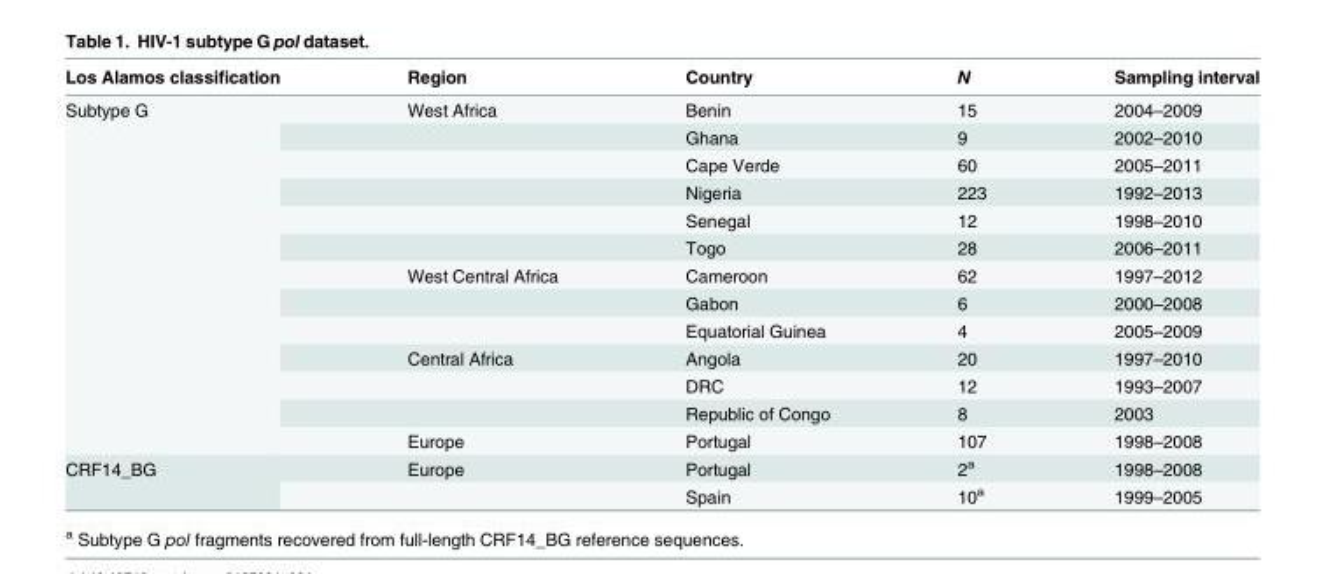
<table><thead><tr><td>Los Alamos classification</td><td>Region</td><td>Country</td><td>N</td><td>Sampling interval</td></tr></thead><tbody><tr><td rowspan="13">Subtype G</td><td>West Africa</td><td>Benin</td><td>15</td><td>2004–2009</td></tr><tr><td></td><td>Ghana</td><td>9</td><td>2002–2010</td></tr><tr><td></td><td>Cape Verde</td><td>60</td><td>2005–2011</td></tr><tr><td></td><td>Nigeria</td><td>223</td><td>1992–2013</td></tr><tr><td></td><td>Senegal</td><td>12</td><td>1998–2010</td></tr><tr><td></td><td>Togo</td><td>28</td><td>2006–2011</td></tr><tr><td>West Central Africa</td><td>Cameroon</td><td>62</td><td>1997–2012</td></tr><tr><td></td><td>Gabon</td><td>6</td><td>2000–2008</td></tr><tr><td></td><td>Equatorial Guinea</td><td>4</td><td>2005–2009</td></tr><tr><td>Central Africa</td><td>Angola</td><td>20</td><td>1997–2010</td></tr><tr><td></td><td>DRC</td><td>12</td><td>1993–2007</td></tr><tr><td></td><td>Republic of Congo</td><td>8</td><td>2003</td></tr><tr><td>Europe</td><td>Portugal</td><td>107</td><td>1998–2008</td></tr><tr><td rowspan="2">CRF14_BG</td><td>Europe</td><td>Portugal</td><td>2<sup>a</sup></td><td>1998–2008</td></tr><tr><td></td><td>Spain</td><td>10<sup>a</sup></td><td>1999–2005</td></tr></tbody></table>